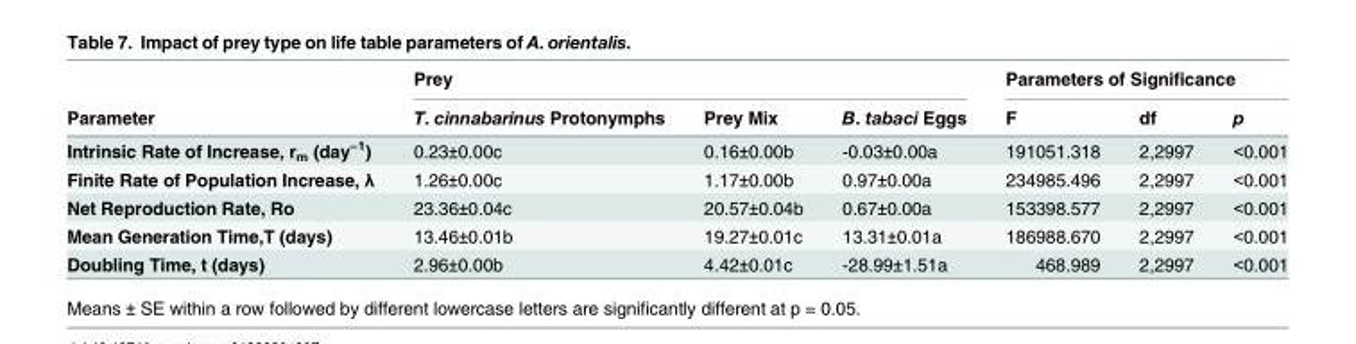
<table><thead><tr><td rowspan="2">Parameter</td><td colspan="3">Prey</td><td colspan="3">Parameters of Significance</td></tr><tr><td>T. cinnabarinus Protonymphs</td><td>Prey Mix</td><td>B. tabaci Eggs</td><td>F</td><td>df</td><td>p</td></tr></thead><tbody><tr><td>Intrinsic Rate of Increase, r<sub>m</sub> (day<sup>−1</sup>)</td><td>0.23±0.00c</td><td>0.16±0.00b</td><td>-0.03±0.00a</td><td>191051.318</td><td>2,2997</td><td>&lt;0.001</td></tr><tr><td>Finite Rate of Population Increase, λ</td><td>1.26±0.00c</td><td>1.17±0.00b</td><td>0.97±0.00a</td><td>234985.496</td><td>2,2997</td><td>&lt;0.001</td></tr><tr><td>Net Reproduction Rate, Ro</td><td>23.36±0.04c</td><td>20.57±0.04b</td><td>0.67±0.00a</td><td>153398.577</td><td>2,2997</td><td>&lt;0.001</td></tr><tr><td>Mean Generation Time,T (days)</td><td>13.46±0.01b</td><td>19.27±0.01c</td><td>13.31±0.01a</td><td>186988.670</td><td>2,2997</td><td>&lt;0.001</td></tr><tr><td>Doubling Time, t (days)</td><td>2.96±0.00b</td><td>4.42±0.01c</td><td>-28.99±1.51a</td><td>468.989</td><td>2,2997</td><td>&lt;0.001</td></tr></tbody></table>